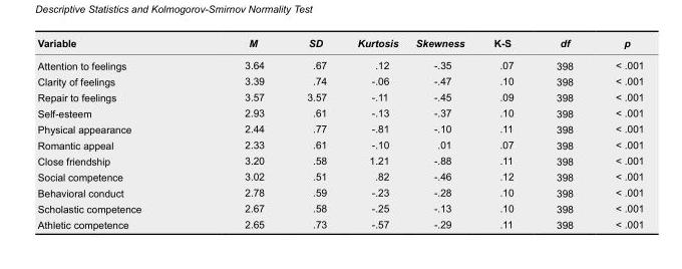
<table><thead><tr><td>Variable</td><td>M</td><td>SD</td><td>Kurtosis</td><td>Skewness</td><td>K-S</td><td>df</td><td>p</td></tr></thead><tbody><tr><td>Attention to feelings</td><td>3.64</td><td>.67</td><td>.12</td><td>-.35</td><td>.07</td><td>398</td><td>&lt; .001</td></tr><tr><td>Clarity of feelings</td><td>3.39</td><td>.74</td><td>-.06</td><td>-.47</td><td>.10</td><td>398</td><td>&lt; .001</td></tr><tr><td>Repair to feelings</td><td>3.57</td><td>3.57</td><td>-.11</td><td>-.45</td><td>.09</td><td>398</td><td>&lt; .001</td></tr><tr><td>Self-esteem</td><td>2.93</td><td>.61</td><td>-.13</td><td>-.37</td><td>.10</td><td>398</td><td>&lt; .001</td></tr><tr><td>Physical appearance</td><td>2.44</td><td>.77</td><td>-.81</td><td>-.10</td><td>.11</td><td>398</td><td>&lt; .001</td></tr><tr><td>Romantic appeal</td><td>2.33</td><td>.61</td><td>-.10</td><td>.01</td><td>.07</td><td>398</td><td>&lt; .001</td></tr><tr><td>Close friendship</td><td>3.20</td><td>.58</td><td>1.21</td><td>-.88</td><td>.11</td><td>398</td><td>&lt; .001</td></tr><tr><td>Social competence</td><td>3.02</td><td>.51</td><td>.82</td><td>-.46</td><td>.12</td><td>398</td><td>&lt; .001</td></tr><tr><td>Behavioral conduct</td><td>2.78</td><td>.59</td><td>-.23</td><td>-.28</td><td>.10</td><td>398</td><td>&lt; .001</td></tr><tr><td>Scholastic competence</td><td>2.67</td><td>.58</td><td>-.25</td><td>-.13</td><td>.10</td><td>398</td><td>&lt; .001</td></tr><tr><td>Athletic competence</td><td>2.65</td><td>.73</td><td>-.57</td><td>-.29</td><td>.11</td><td>398</td><td>&lt; .001</td></tr></tbody></table>